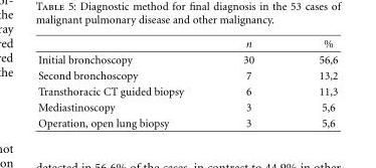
<table><thead><tr><td></td><td>n</td><td>%</td></tr></thead><tbody><tr><td>Initial bronchoscopy</td><td>30</td><td>56,6</td></tr><tr><td>Second bronchoscopy</td><td>7</td><td>13,2</td></tr><tr><td>Transthoracic CT guided biopsy</td><td>6</td><td>11,3</td></tr><tr><td>Mediastinoscopy</td><td>3</td><td>5,6</td></tr><tr><td>Operation, open lung biopsy</td><td>3</td><td>5,6</td></tr></tbody></table>